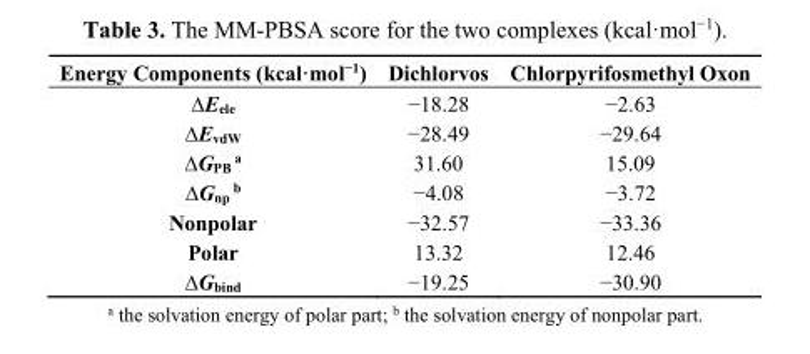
<table><thead><tr><td>Energy Components (kcal·mol<sup>−1</sup>)</td><td>Dichlorvos</td><td>Chlorpyrifosmethyl Oxon</td></tr></thead><tbody><tr><td>∆E<sub>ele</sub></td><td>−18.28</td><td>−2.63</td></tr><tr><td>∆E<sub>vdW</sub></td><td>−28.49</td><td>−29.64</td></tr><tr><td>∆G<sub>PB</sub> <sup>a</sup></td><td>31.60</td><td>15.09</td></tr><tr><td>∆G<sub>np</sub> <sup>b</sup></td><td>−4.08</td><td>−3.72</td></tr><tr><td>Nonpolar</td><td>−32.57</td><td>−33.36</td></tr><tr><td>Polar</td><td>13.32</td><td>12.46</td></tr><tr><td>∆G<sub>bind</sub></td><td>−19.25</td><td>−30.90</td></tr></tbody></table>